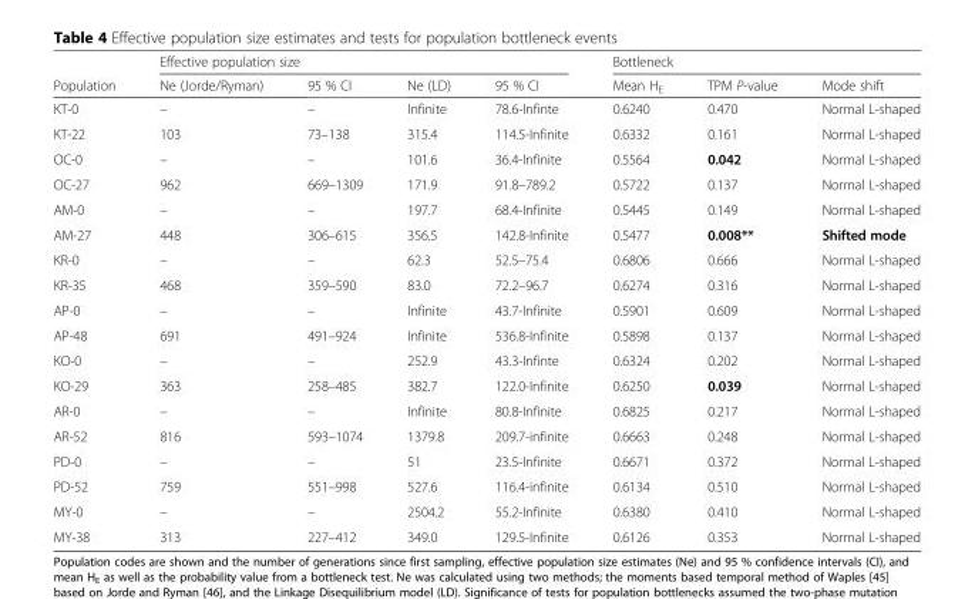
<table><thead><tr><td rowspan="2">Population</td><td colspan="4">Effective population size</td><td colspan="3">Bottleneck</td></tr><tr><td>Ne (Jorde/Ryman)</td><td>95 % CI</td><td>Ne (LD)</td><td>95 % CI</td><td>Mean H<sub>E</sub></td><td>TPM P-value</td><td>Mode shift</td></tr></thead><tbody><tr><td>KT-0</td><td>–</td><td>–</td><td>Infinite</td><td>78.6-Infinte</td><td>0.6240</td><td>0.470</td><td>Normal L-shaped</td></tr><tr><td>KT-22</td><td>103</td><td>73–138</td><td>315.4</td><td>114.5-Infinite</td><td>0.6332</td><td>0.161</td><td>Normal L-shaped</td></tr><tr><td>OC-0</td><td>–</td><td>–</td><td>101.6</td><td>36.4-Infinite</td><td>0.5564</td><td>0.042</td><td>Normal L-shaped</td></tr><tr><td>OC-27</td><td>962</td><td>669–1309</td><td>171.9</td><td>91.8–789.2</td><td>0.5722</td><td>0.137</td><td>Normal L-shaped</td></tr><tr><td>AM-0</td><td>–</td><td>–</td><td>197.7</td><td>68.4-Infinite</td><td>0.5445</td><td>0.149</td><td>Normal L-shaped</td></tr><tr><td>AM-27</td><td>448</td><td>306–615</td><td>356.5</td><td>142.8-Infinite</td><td>0.5477</td><td>0.008**</td><td>Shifted mode</td></tr><tr><td>KR-0</td><td>–</td><td>–</td><td>62.3</td><td>52.5–75.4</td><td>0.6806</td><td>0.666</td><td>Normal L-shaped</td></tr><tr><td>KR-35</td><td>468</td><td>359–590</td><td>83.0</td><td>72.2–96.7</td><td>0.6274</td><td>0.316</td><td>Normal L-shaped</td></tr><tr><td>AP-0</td><td>–</td><td>–</td><td>Infinite</td><td>43.7-Infinite</td><td>0.5901</td><td>0.609</td><td>Normal L-shaped</td></tr><tr><td>AP-48</td><td>691</td><td>491–924</td><td>Infinite</td><td>536.8-Infinite</td><td>0.5898</td><td>0.137</td><td>Normal L-shaped</td></tr><tr><td>KO-0</td><td>–</td><td>–</td><td>252.9</td><td>43.3-Infinte</td><td>0.6324</td><td>0.202</td><td>Normal L-shaped</td></tr><tr><td>KO-29</td><td>363</td><td>258–485</td><td>382.7</td><td>122.0-Infinite</td><td>0.6250</td><td>0.039</td><td>Normal L-shaped</td></tr><tr><td>AR-0</td><td>–</td><td>–</td><td>Infinite</td><td>80.8-Infinite</td><td>0.6825</td><td>0.217</td><td>Normal L-shaped</td></tr><tr><td>AR-52</td><td>816</td><td>593–1074</td><td>1379.8</td><td>209.7-infinite</td><td>0.6663</td><td>0.248</td><td>Normal L-shaped</td></tr><tr><td>PD-0</td><td>–</td><td>–</td><td>51</td><td>23.5-Infinite</td><td>0.6671</td><td>0.372</td><td>Normal L-shaped</td></tr><tr><td>PD-52</td><td>759</td><td>551–998</td><td>527.6</td><td>116.4-infinite</td><td>0.6134</td><td>0.510</td><td>Normal L-shaped</td></tr><tr><td>MY-0</td><td>–</td><td>–</td><td>2504.2</td><td>55.2-Infinite</td><td>0.6380</td><td>0.410</td><td>Normal L-shaped</td></tr><tr><td>MY-38</td><td>313</td><td>227–412</td><td>349.0</td><td>129.5-Infinite</td><td>0.6126</td><td>0.353</td><td>Normal L-shaped</td></tr></tbody></table>